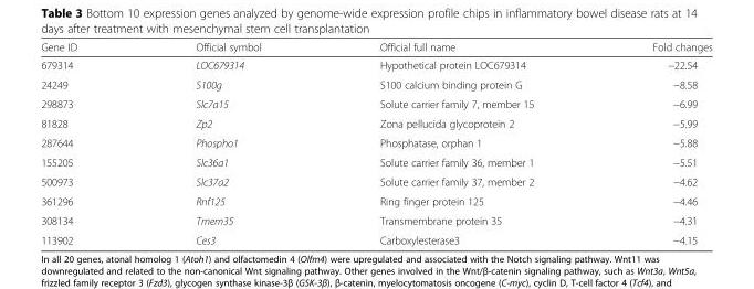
<table><thead><tr><td>Gene ID</td><td>Official symbol</td><td>Official full name</td><td>Fold changes</td></tr></thead><tbody><tr><td>679314</td><td>LOC679314</td><td>Hypothetical protein LOC679314</td><td>−22.54</td></tr><tr><td>24249</td><td>S100g</td><td>S100 calcium binding protein G</td><td>−8.58</td></tr><tr><td>298873</td><td>Slc7a15</td><td>Solute carrier family 7, member 15</td><td>−6.99</td></tr><tr><td>81828</td><td>Zp2</td><td>Zona pellucida glycoprotein 2</td><td>−5.99</td></tr><tr><td>287644</td><td>Phospho1</td><td>Phosphatase, orphan 1</td><td>−5.88</td></tr><tr><td>155205</td><td>Slc36a1</td><td>Solute carrier family 36, member 1</td><td>−5.51</td></tr><tr><td>500973</td><td>Slc37a2</td><td>Solute carrier family 37, member 2</td><td>−4.62</td></tr><tr><td>361296</td><td>Rnf125</td><td>Ring finger protein 125</td><td>−4.46</td></tr><tr><td>308134</td><td>Tmem35</td><td>Transmembrane protein 35</td><td>−4.31</td></tr><tr><td>113902</td><td>Ces3</td><td>Carboxylesterase3</td><td>−4.15</td></tr></tbody></table>